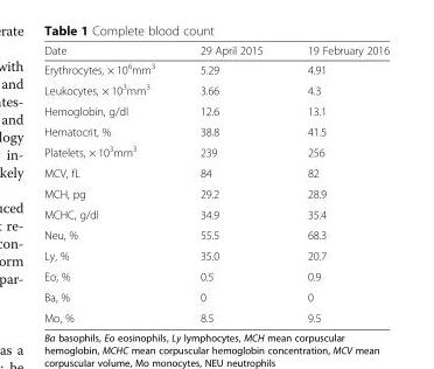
<table><thead><tr><td>Date</td><td>29 April 2015</td><td>19 February 2016</td></tr></thead><tbody><tr><td>Erythrocytes, × 10<sup>6</sup>mm<sup>3</sup></td><td>5.29</td><td>4.91</td></tr><tr><td>Leukocytes, × 10<sup>3</sup>mm<sup>3</sup></td><td>3.66</td><td>4.3</td></tr><tr><td>Hemoglobin, g/dl</td><td>12.6</td><td>13.1</td></tr><tr><td>Hematocrit, %</td><td>38.8</td><td>41.5</td></tr><tr><td>Platelets, × 10<sup>3</sup>mm<sup>3</sup></td><td>239</td><td>256</td></tr><tr><td>MCV, fL</td><td>84</td><td>82</td></tr><tr><td>MCH, pg</td><td>29.2</td><td>28.9</td></tr><tr><td>MCHC, g/dl</td><td>34.9</td><td>35.4</td></tr><tr><td>Neu, %</td><td>55.5</td><td>68.3</td></tr><tr><td>Ly, %</td><td>35.0</td><td>20.7</td></tr><tr><td>Eo, %</td><td>0.5</td><td>0.9</td></tr><tr><td>Ba, %</td><td>0</td><td>0</td></tr><tr><td>Mo, %</td><td>8.5</td><td>9.5</td></tr></tbody></table>